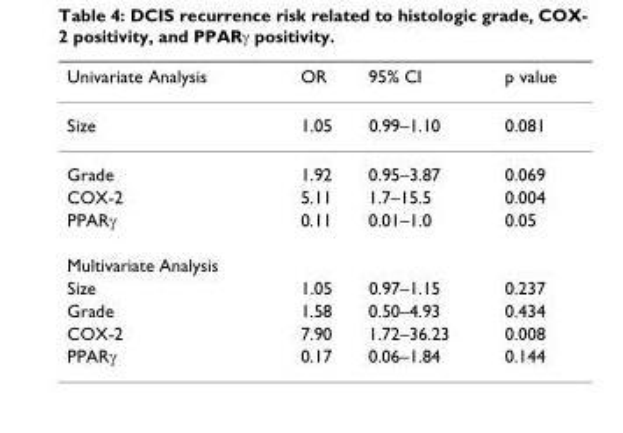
<table><thead><tr><td>Univariate Analysis</td><td>OR</td><td>95% CI</td><td>p value</td></tr></thead><tbody><tr><td>Size</td><td>1.05</td><td>0.99–1.10</td><td>0.081</td></tr><tr><td>Grade</td><td>1.92</td><td>0.95–3.87</td><td>0.069</td></tr><tr><td>COX-2</td><td>5.11</td><td>1.7–15.5</td><td>0.004</td></tr><tr><td>PPARγ</td><td>0.11</td><td>0.01–1.0</td><td>0.05</td></tr><tr><td colspan="4">Multivariate Analysis</td></tr><tr><td>Size</td><td>1.05</td><td>0.97–1.15</td><td>0.237</td></tr><tr><td>Grade</td><td>1.58</td><td>0.50–4.93</td><td>0.434</td></tr><tr><td>COX-2</td><td>7.90</td><td>1.72–36.23</td><td>0.008</td></tr><tr><td>PPARγ</td><td>0.17</td><td>0.06–1.84</td><td>0.144</td></tr></tbody></table>